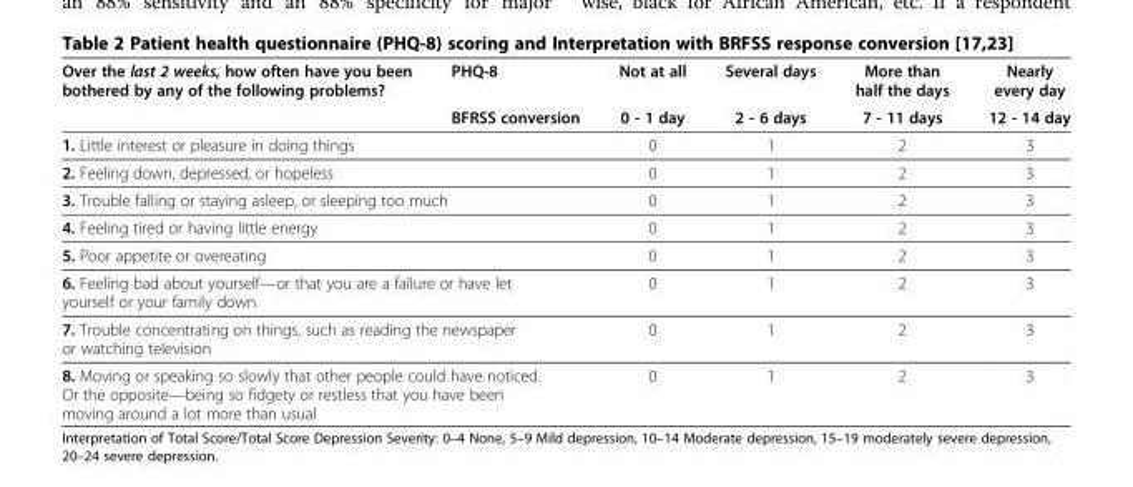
<table><thead><tr><td rowspan="2">Over the last 2 weeks, how often have you been bothered by any of the following problems?</td><td rowspan="2">PHQ-8 BFRSS conversion</td><td rowspan="2">Not at all 0 - 1 day</td><td rowspan="2">Several days 2 - 6 days</td><td rowspan="2">More than half the days 7 - 11 days</td><td rowspan="2">Nearly every day 12 - 14 day</td></tr><tr></tr></thead><tbody><tr><td colspan="2">1. Little interest or pleasure in doing things</td><td>0</td><td>1</td><td>2</td><td>3</td></tr><tr><td colspan="2">2. Feeling down, depressed, or hopeless</td><td>0</td><td>1</td><td>2</td><td>3</td></tr><tr><td colspan="2">3. Trouble falling or staying asleep, or sleeping too much</td><td>0</td><td>1</td><td>2</td><td>3</td></tr><tr><td colspan="2">4. Feeling tired or having little energy</td><td>0</td><td>1</td><td>2</td><td>3</td></tr><tr><td colspan="2">5. Poor appetite or overeating</td><td>0</td><td>1</td><td>2</td><td>3</td></tr><tr><td colspan="2">6. Feeling bad about yourself—or that you are a failure or have let yourself or your family down</td><td>0</td><td>1</td><td>2</td><td>3</td></tr><tr><td colspan="2">7. Trouble concentrating on things, such as reading the newspaper or watching television</td><td>0</td><td>1</td><td>2</td><td>3</td></tr><tr><td colspan="2">8. Moving or speaking so slowly that other people could have noticed. Or the opposite—being so fidgety or restless that you have been moving around a lot more than usual</td><td>0</td><td>1</td><td>2</td><td>3</td></tr></tbody></table>